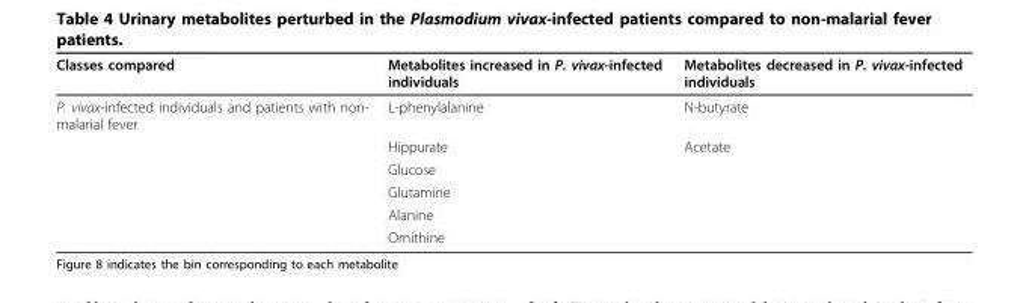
<table><thead><tr><td>Classes compared</td><td>Metabolites increased in P. vivax-infected individuals</td><td>Metabolites decreased in P. vivax-infected individuals</td></tr></thead><tbody><tr><td rowspan="6">P. vivax-infected individuals and patients with non- malarial fever</td><td>L-phenylalanine</td><td>N-butyrate</td></tr><tr><td>Hippurate</td><td>Acetate</td></tr><tr><td>Glucose</td><td></td></tr><tr><td>Glutamine</td><td></td></tr><tr><td>Alanine</td><td></td></tr><tr><td>Ornithine</td><td></td></tr></tbody></table>